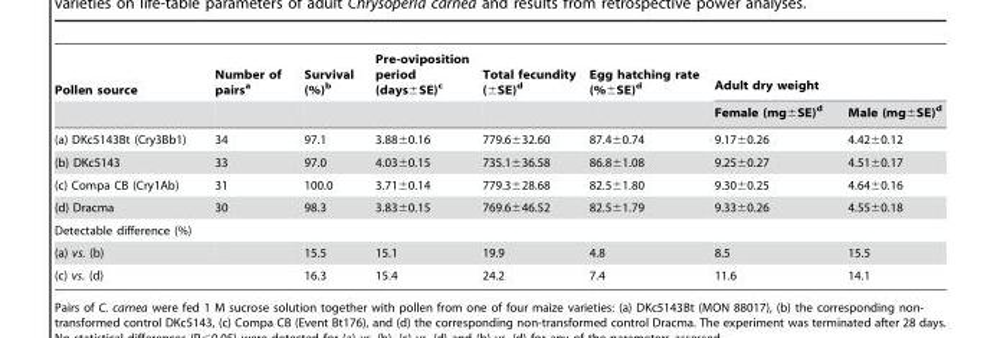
<table><thead><tr><td rowspan="2">Pollen source</td><td rowspan="2">Number of pairs<sup>a</sup></td><td rowspan="2">Survival (%)<sup>b</sup></td><td rowspan="2">Pre-oviposition period (days±SE)<sup>c</sup></td><td rowspan="2">Total fecundity (±SE)<sup>d</sup></td><td rowspan="2">Egg hatching rate (%±SE)<sup>d</sup></td><td colspan="2">Adult dry weight</td></tr><tr><td>Female (mg±SE)<sup>d</sup></td><td>Male (mg±SE)<sup>d</sup></td></tr></thead><tbody><tr><td>(a) DKc5143Bt (Cry3Bb1)</td><td>34</td><td>97.1</td><td>3.88±0.16</td><td>779.6±32.60</td><td>87.4±0.74</td><td>9.17±0.26</td><td>4.42±0.12</td></tr><tr><td>(b) DKc5143</td><td>33</td><td>97.0</td><td>4.03±0.15</td><td>735.1±36.58</td><td>86.8±1.08</td><td>9.25±0.27</td><td>4.51±0.17</td></tr><tr><td>(c) Compa CB (Cry1Ab)</td><td>31</td><td>100.0</td><td>3.71±0.14</td><td>779.3±28.68</td><td>82.5±1.80</td><td>9.30±0.25</td><td>4.64±0.16</td></tr><tr><td>(d) Dracma</td><td>30</td><td>98.3</td><td>3.83±0.15</td><td>769.6±46.52</td><td>82.5±1.79</td><td>9.33±0.26</td><td>4.55±0.18</td></tr><tr><td colspan="8">Detectable difference (%)</td></tr><tr><td>(a) vs. (b)</td><td></td><td>15.5</td><td>15.1</td><td>19.9</td><td>4.8</td><td>8.5</td><td>15.5</td></tr><tr><td>(c) vs. (d)</td><td></td><td>16.3</td><td>15.4</td><td>24.2</td><td>7.4</td><td>11.6</td><td>14.1</td></tr></tbody></table>